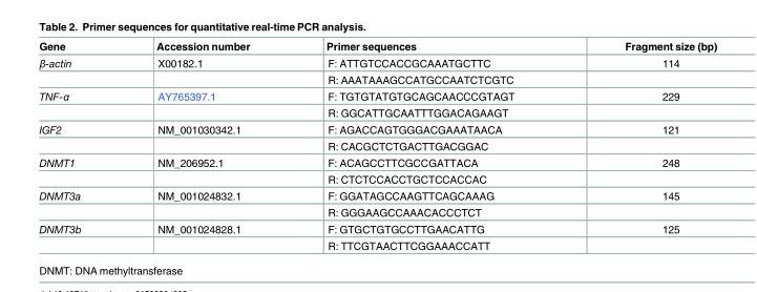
<table><thead><tr><td>Gene</td><td>Accession number</td><td>Primer sequences</td><td>Fragment size (bp)</td></tr></thead><tbody><tr><td rowspan="2">β-actin</td><td>X00182.1</td><td>F: ATTGTCCACCGCAAATGCTTC</td><td>114</td></tr><tr><td></td><td>R: AAATAAAGCCATGCCAATCTCGTC</td><td></td></tr><tr><td rowspan="2">TNF-α</td><td>AY765397.1</td><td>F: TGTGTATGTGCAGCAACCCGTAGT</td><td>229</td></tr><tr><td></td><td>R: GGCATTGCAATTTGGACAGAAGT</td><td></td></tr><tr><td rowspan="2">IGF2</td><td>NM_001030342.1</td><td>F: AGACCAGTGGGACGAAATAACA</td><td>121</td></tr><tr><td></td><td>R: CACGCTCTGACTTGACGGAC</td><td></td></tr><tr><td rowspan="2">DNMT1</td><td>NM_206952.1</td><td>F: ACAGCCTTCGCCGATTACA</td><td>248</td></tr><tr><td></td><td>R: CTCTCCACCTGCTCCACCAC</td><td></td></tr><tr><td rowspan="2">DNMT3a</td><td>NM_001024832.1</td><td>F: GGATAGCCAAGTTCAGCAAAG</td><td>145</td></tr><tr><td></td><td>R: GGGAAGCCAAACACCCTCT</td><td></td></tr><tr><td rowspan="2">DNMT3b</td><td>NM_001024828.1</td><td>F: GTGCTGTGCCTTGAACATTG</td><td>125</td></tr><tr><td></td><td>R: TTCGTAACTTCGGAAACCATT</td><td></td></tr></tbody></table>